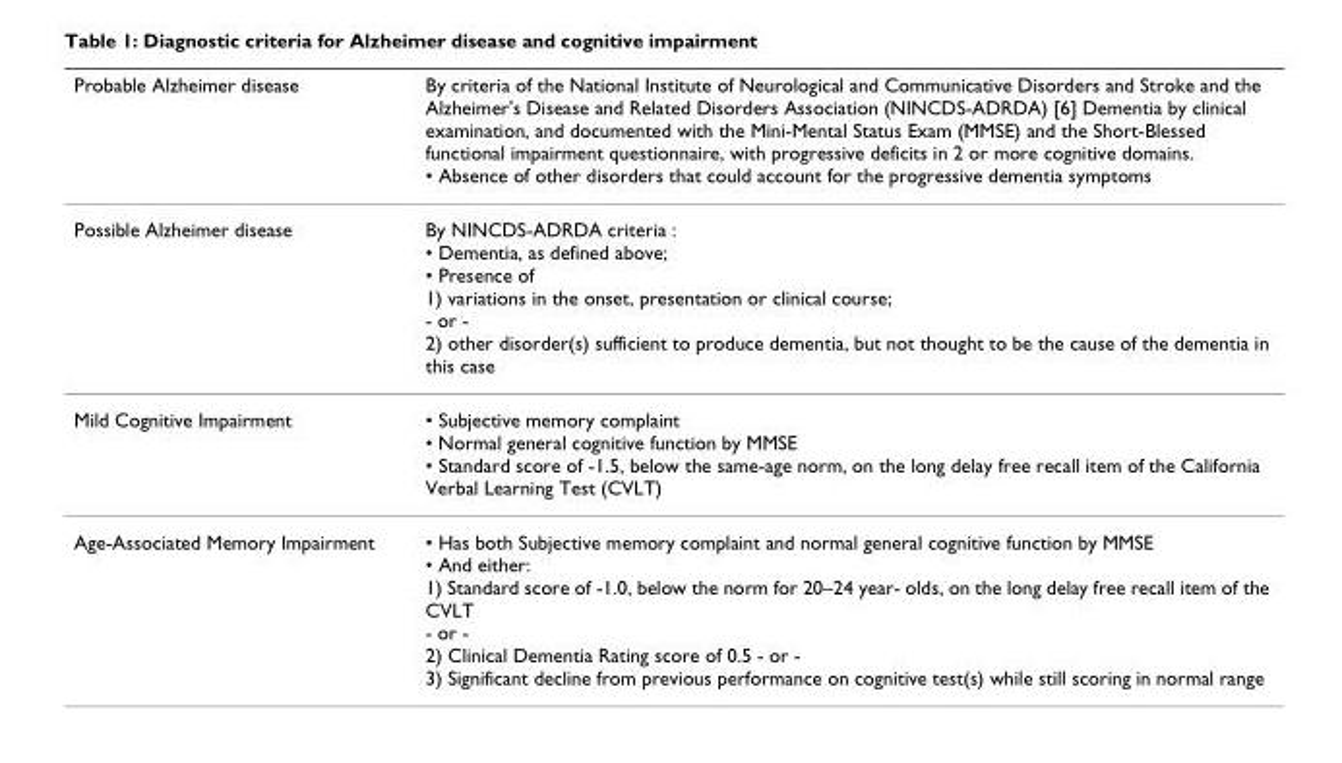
<table><thead><tr><td>Probable Alzheimer disease</td><td>By criteria of the National Institute of Neurological and Communicative Disorders and Stroke and the Alzheimer&#x27;s Disease and Related Disorders Association (NINCDS-ADRDA) [6] Dementia by clinical examination, and documented with the Mini-Mental Status Exam (MMSE) and the Short-Blessed functional impairment questionnaire, with progressive deficits in 2 or more cognitive domains. • Absence of other disorders that could account for the progressive dementia symptoms</td></tr></thead><tbody><tr><td>Possible Alzheimer disease</td><td>By NINCDS-ADRDA criteria : • Dementia, as defined above; • Presence of 1) variations in the onset, presentation or clinical course; - or - 2) other disorder(s) sufficient to produce dementia, but not thought to be the cause of the dementia in this case</td></tr><tr><td>Mild Cognitive Impairment</td><td>• Subjective memory complaint • Normal general cognitive function by MMSE • Standard score of -1.5, below the same-age norm, on the long delay free recall item of the California Verbal Learning Test (CVLT)</td></tr><tr><td>Age-Associated Memory Impairment</td><td>• Has both Subjective memory complaint and normal general cognitive function by MMSE • And either: 1) Standard score of -1.0, below the norm for 20–24 year- olds, on the long delay free recall item of the CVLT - or - 2) Clinical Dementia Rating score of 0.5 - or - 3) Significant decline from previous performance on cognitive test(s) while still scoring in normal range</td></tr></tbody></table>